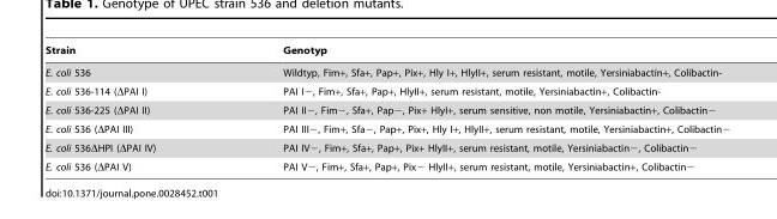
<table><thead><tr><td>Strain</td><td>Genotyp</td></tr></thead><tbody><tr><td>E. coli 536</td><td>Wildtyp, Fim+, Sfa+, Pap+, Pix+, Hly I+, HlyII+, serum resistant, motile, Yersiniabactin+, Colibactin-</td></tr><tr><td>E. coli 536-114 (ΔPAI I)</td><td>PAI I−, Fim+, Sfa+, Pap+, HlyII+, serum resistant, motile, Yersiniabactin+, Colibactin-</td></tr><tr><td>E. coli 536-225 (ΔPAI II)</td><td>PAI II−, Fim−, Sfa+, Pap−, Pix+ HlyI+, serum sensitive, non motile, Yersiniabactin+, Colibactin−</td></tr><tr><td>E. coli 536 (ΔPAI III)</td><td>PAI III−, Fim+, Sfa−, Pap+, Pix+, Hly I+, HlyII+, serum resistant, motile, Yersiniabactin+, Colibactin−</td></tr><tr><td>E. coli 536ΔHPI (ΔPAI IV)</td><td>PAI IV−, Fim+, Sfa+, Pap+, Pix+ HlyII+, serum resistant, motile, Yersiniabactin−, Colibactin−</td></tr><tr><td>E. coli 536 (ΔPAI V)</td><td>PAI V−, Fim+, Sfa+, Pap+, Pix− HlyII+, serum resistant, motile, Yersiniabactin+, Colibactin−</td></tr></tbody></table>